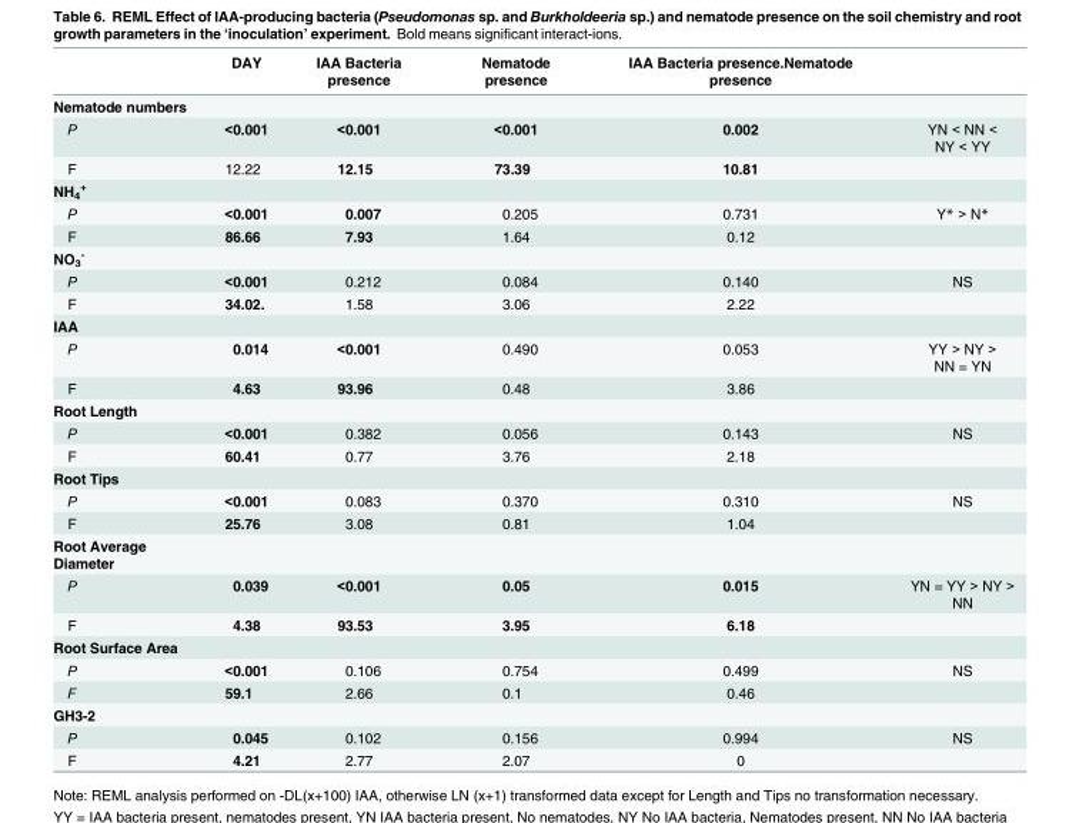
<table><thead><tr><td></td><td>DAY</td><td>IAA Bacteria presence</td><td>Nematode presence</td><td>IAA Bacteria presence.Nematode presence</td><td></td></tr></thead><tbody><tr><td colspan="6">Nematode numbers</td></tr><tr><td>P</td><td>&lt;0.001</td><td>&lt;0.001</td><td>&lt;0.001</td><td>0.002</td><td>YN &lt; NN &lt; NY &lt; YY</td></tr><tr><td>F</td><td>12.22</td><td>12.15</td><td>73.39</td><td>10.81</td><td></td></tr><tr><td colspan="6">NH<sub>4</sub> <sup>+</sup></td></tr><tr><td>P</td><td>&lt;0.001</td><td>0.007</td><td>0.205</td><td>0.731</td><td>Y* &gt; N*</td></tr><tr><td>F</td><td>86.66</td><td>7.93</td><td>1.64</td><td>0.12</td><td></td></tr><tr><td colspan="6">NO<sub>3</sub> <sup>-</sup></td></tr><tr><td>P</td><td>&lt;0.001</td><td>0.212</td><td>0.084</td><td>0.140</td><td>NS</td></tr><tr><td>F</td><td>34.02.</td><td>1.58</td><td>3.06</td><td>2.22</td><td></td></tr><tr><td colspan="6">IAA</td></tr><tr><td>P</td><td>0.014</td><td>&lt;0.001</td><td>0.490</td><td>0.053</td><td>YY &gt; NY &gt; NN = YN</td></tr><tr><td>F</td><td>4.63</td><td>93.96</td><td>0.48</td><td>3.86</td><td></td></tr><tr><td colspan="6">Root Length</td></tr><tr><td>P</td><td>&lt;0.001</td><td>0.382</td><td>0.056</td><td>0.143</td><td>NS</td></tr><tr><td>F</td><td>60.41</td><td>0.77</td><td>3.76</td><td>2.18</td><td></td></tr><tr><td colspan="6">Root Tips</td></tr><tr><td>P</td><td>&lt;0.001</td><td>0.083</td><td>0.370</td><td>0.310</td><td>NS</td></tr><tr><td>F</td><td>25.76</td><td>3.08</td><td>0.81</td><td>1.04</td><td></td></tr><tr><td colspan="6">Root Average Diameter</td></tr><tr><td>P</td><td>0.039</td><td>&lt;0.001</td><td>0.05</td><td>0.015</td><td>YN = YY &gt; NY &gt; NN</td></tr><tr><td>F</td><td>4.38</td><td>93.53</td><td>3.95</td><td>6.18</td><td></td></tr><tr><td colspan="6">Root Surface Area</td></tr><tr><td>P</td><td>&lt;0.001</td><td>0.106</td><td>0.754</td><td>0.499</td><td>NS</td></tr><tr><td>F</td><td>59.1</td><td>2.66</td><td>0.1</td><td>0.46</td><td></td></tr><tr><td colspan="6">GH3-2</td></tr><tr><td>P</td><td>0.045</td><td>0.102</td><td>0.156</td><td>0.994</td><td>NS</td></tr><tr><td>F</td><td>4.21</td><td>2.77</td><td>2.07</td><td>0</td><td></td></tr></tbody></table>